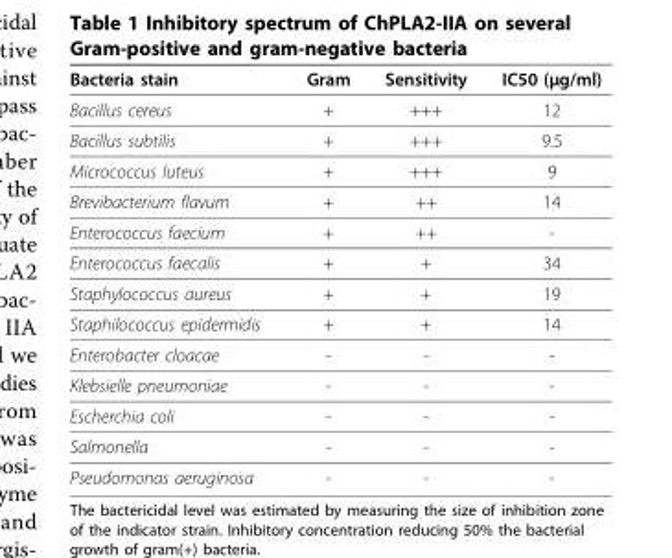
<table><thead><tr><td>Bacteria stain</td><td>Gram</td><td>Sensitivity</td><td>IC50 (μg/ml)</td></tr></thead><tbody><tr><td>Bacillus cereus</td><td>+</td><td>+++</td><td>12</td></tr><tr><td>Bacillus subtilis</td><td>+</td><td>+++</td><td>9.5</td></tr><tr><td>Micrococcus luteus</td><td>+</td><td>+++</td><td>9</td></tr><tr><td>Brevibacterium flavum</td><td>+</td><td>++</td><td>14</td></tr><tr><td>Enterococcus faecium</td><td>+</td><td>++</td><td>-</td></tr><tr><td>Enterococcus faecalis</td><td>+</td><td>+</td><td>34</td></tr><tr><td>Staphylococcus aureus</td><td>+</td><td>+</td><td>19</td></tr><tr><td>Staphilococcus epidermidis</td><td>+</td><td>+</td><td>14</td></tr><tr><td>Enterobacter cloacae</td><td>-</td><td>-</td><td>-</td></tr><tr><td>Klebsielle pneumoniae</td><td>-</td><td>-</td><td>-</td></tr><tr><td>Escherchia coli</td><td>-</td><td>-</td><td>-</td></tr><tr><td>Salmonella</td><td>-</td><td>-</td><td>-</td></tr><tr><td>Pseudomonas aeruginosa</td><td>-</td><td>-</td><td>-</td></tr></tbody></table>